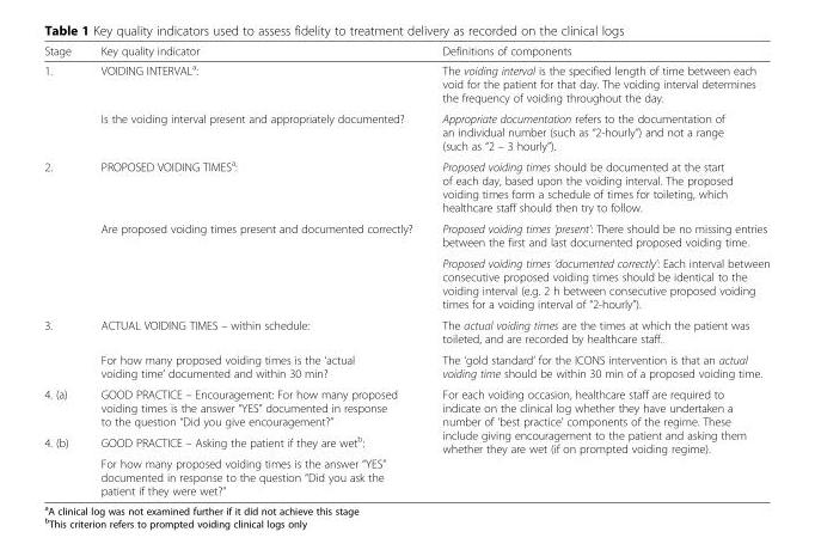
<table><thead><tr><td>Stage</td><td>Key quality indicator</td><td>Definitions of components</td></tr></thead><tbody><tr><td rowspan="2">1.</td><td>VOIDING INTERVAL<sup>a</sup>:</td><td>The voiding interval is the specified length of time between each void for the patient for that day. The voiding interval determines the frequency of voiding throughout the day.</td></tr><tr><td>Is the voiding interval present and appropriately documented?</td><td>Appropriate documentation refers to the documentation of an individual number (such as “2-hourly”) and not a range (such as “2 – 3 hourly”).</td></tr><tr><td rowspan="3">2.</td><td>PROPOSED VOIDING TIMES<sup>a</sup>:</td><td>Proposed voiding times should be documented at the start of each day, based upon the voiding interval. The proposed voiding times form a schedule of times for toileting, which healthcare staff should then try to follow.</td></tr><tr><td rowspan="2">Are proposed voiding times present and documented correctly?</td><td>Proposed voiding times ‘present’: There should be no missing entries between the first and last documented proposed voiding time.</td></tr><tr><td>Proposed voiding times ‘documented correctly’: Each interval between consecutive proposed voiding times should be identical to the voiding interval (e.g. 2 h between consecutive proposed voiding times for a voiding interval of “2-hourly”).</td></tr><tr><td rowspan="2">3.</td><td>ACTUAL VOIDING TIMES – within schedule:</td><td>The actual voiding times are the times at which the patient was toileted, and are recorded by healthcare staff.</td></tr><tr><td>For how many proposed voiding times is the ‘actual voiding time’ documented and within 30 min?</td><td>The ‘gold standard’ for the ICONS intervention is that an actual voiding time should be within 30 min of a proposed voiding time.</td></tr><tr><td>4. (a)</td><td>GOOD PRACTICE – Encouragement: For how many proposed voiding times is the answer “YES” documented in response to the question “Did you give encouragement?”</td><td rowspan="3">For each voiding occasion, healthcare staff are required to indicate on the clinical log whether they have undertaken a number of ‘best practice’ components of the regime. These include giving encouragement to the patient and asking them whether they are wet (if on prompted voiding regime).</td></tr><tr><td rowspan="2">4. (b)</td><td>GOOD PRACTICE – Asking the patient if they are wet<sup>b</sup>:</td></tr><tr><td>For how many proposed voiding times is the answer “YES” documented in response to the question “Did you ask the patient if they were wet?”</td></tr></tbody></table>